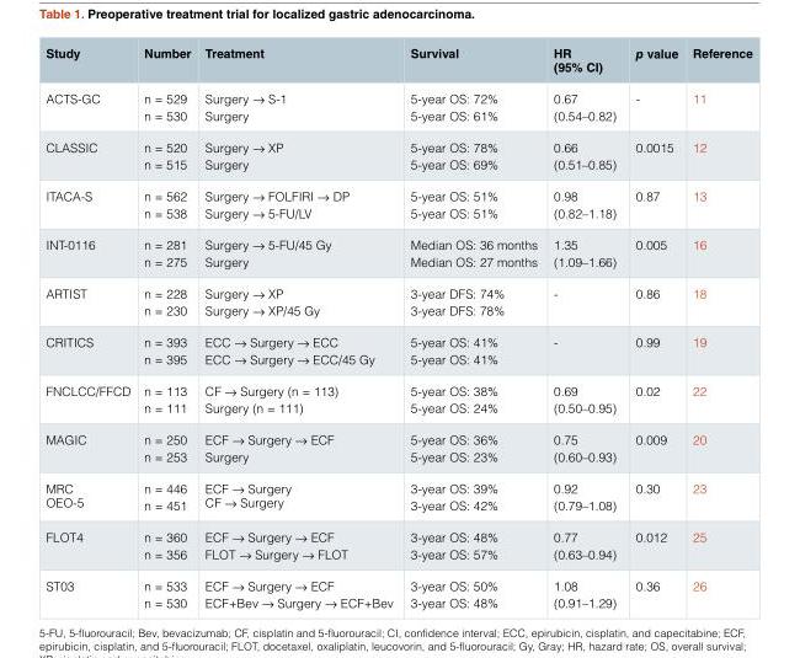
<table><thead><tr><td>Study</td><td>Number</td><td>Treatment</td><td>Survival</td><td>HR (95% CI)</td><td>p value</td><td>Reference</td></tr></thead><tbody><tr><td>ACTS-GC</td><td>n = 529 n = 530</td><td>Surgery → S-1 Surgery</td><td>5-year OS: 72% 5-year OS: 61%</td><td>0.67 (0.54–0.82)</td><td>-</td><td>11</td></tr><tr><td>CLASSIC</td><td>n = 520 n = 515</td><td>Surgery → XP Surgery</td><td>5-year OS: 78% 5-year OS: 69%</td><td>0.66 (0.51–0.85)</td><td>0.0015</td><td>12</td></tr><tr><td>ITACA-S</td><td>n = 562 n = 538</td><td>Surgery → FOLFIRI → DP Surgery → 5-FU/LV</td><td>5-year OS: 51% 5-year OS: 51%</td><td>0.98 (0.82–1.18)</td><td>0.87</td><td>13</td></tr><tr><td>INT-0116</td><td>n = 281 n = 275</td><td>Surgery → 5-FU/45 Gy Surgery</td><td>Median OS: 36 months Median OS: 27 months</td><td>1.35 (1.09–1.66)</td><td>0.005</td><td>16</td></tr><tr><td>ARTIST</td><td>n = 228 n = 230</td><td>Surgery → XP Surgery → XP/45 Gy</td><td>3-year DFS: 74% 3-year DFS: 78%</td><td>-</td><td>0.86</td><td>18</td></tr><tr><td>CRITICS</td><td>n = 393 n = 395</td><td>ECC → Surgery → ECC ECC → Surgery → ECC/45 Gy</td><td>5-year OS: 41% 5-year OS: 41%</td><td>-</td><td>0.99</td><td>19</td></tr><tr><td>FNCLCC/FFCD</td><td>n = 113 n = 111</td><td>CF → Surgery (n = 113) Surgery (n = 111)</td><td>5-year OS: 38% 5-year OS: 24%</td><td>0.69 (0.50–0.95)</td><td>0.02</td><td>22</td></tr><tr><td>MAGIC</td><td>n = 250 n = 253</td><td>ECF → Surgery → ECF Surgery</td><td>5-year OS: 36% 5-year OS: 23%</td><td>0.75 (0.60–0.93)</td><td>0.009</td><td>20</td></tr><tr><td>MRC OEO-5</td><td>n = 446 n = 451</td><td>ECF → Surgery CF → Surgery</td><td>3-year OS: 39% 3-year OS: 42%</td><td>0.92 (0.79–1.08)</td><td>0.30</td><td>23</td></tr><tr><td>FLOT4</td><td>n = 360 n = 356</td><td>ECF → Surgery → ECF FLOT → Surgery → FLOT</td><td>3-year OS: 48% 3-year OS: 57%</td><td>0.77 (0.63–0.94)</td><td>0.012</td><td>25</td></tr><tr><td>ST03</td><td>n = 533 n = 530</td><td>ECF → Surgery → ECF ECF+Bev → Surgery → ECF+Bev</td><td>3-year OS: 50% 3-year OS: 48%</td><td>1.08 (0.91–1.29)</td><td>0.36</td><td>26</td></tr></tbody></table>